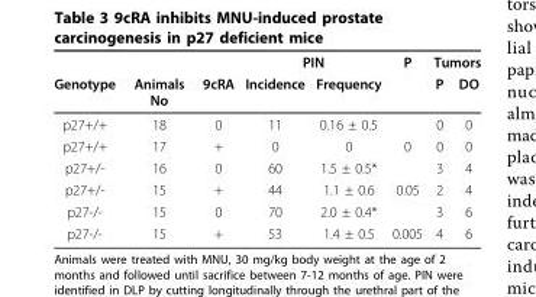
<table><thead><tr><td rowspan="2">Genotype</td><td rowspan="2">Animals No</td><td rowspan="2">9cRA</td><td colspan="2">PIN</td><td rowspan="2">P</td><td colspan="2">Tumors</td></tr><tr><td>Incidence</td><td>Frequency</td><td>P</td><td>DO</td></tr></thead><tbody><tr><td>p27+/+</td><td>18</td><td>0</td><td>11</td><td>0.16 ± 0.5</td><td></td><td>0</td><td>0</td></tr><tr><td>p27+/+</td><td>17</td><td>+</td><td>0</td><td>0</td><td>0</td><td>0</td><td>0</td></tr><tr><td>p27+/-</td><td>16</td><td>0</td><td>60</td><td>1.5 ± 0.5*</td><td></td><td>3</td><td>4</td></tr><tr><td>p27+/-</td><td>15</td><td>+</td><td>44</td><td>1.1 ± 0.6</td><td>0.05</td><td>2</td><td>4</td></tr><tr><td>p27-/-</td><td>15</td><td>0</td><td>70</td><td>2.0 ± 0.4*</td><td></td><td>3</td><td>6</td></tr><tr><td>p27-/-</td><td>15</td><td>+</td><td>53</td><td>1.4 ± 0.5</td><td>0.005</td><td>4</td><td>6</td></tr></tbody></table>